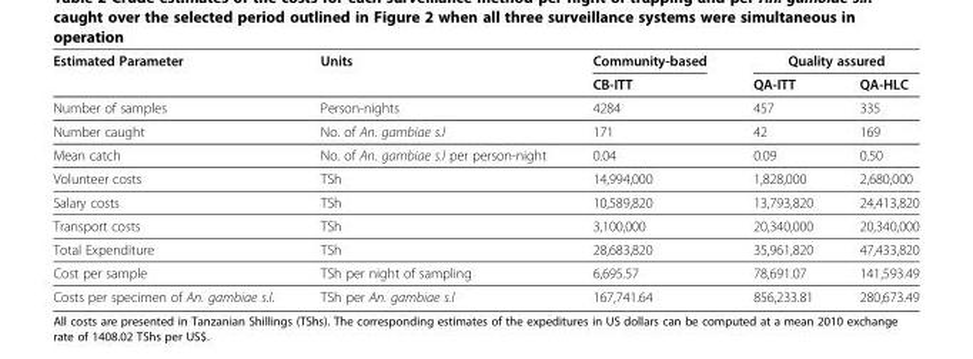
<table><thead><tr><td rowspan="2">Estimated Parameter</td><td rowspan="2">Units</td><td rowspan="2">Community-based CB-ITT</td><td colspan="2">Quality assured</td></tr><tr><td>QA-ITT</td><td>QA-HLC</td></tr></thead><tbody><tr><td>Number of samples</td><td>Person-nights</td><td>4284</td><td>457</td><td>335</td></tr><tr><td>Number caught</td><td>No. of An. gambiae s.l</td><td>171</td><td>42</td><td>169</td></tr><tr><td>Mean catch</td><td>No. of An. gambiae s.l per person-night</td><td>0.04</td><td>0.09</td><td>0.50</td></tr><tr><td>Volunteer costs</td><td>TSh</td><td>14,994,000</td><td>1,828,000</td><td>2,680,000</td></tr><tr><td>Salary costs</td><td>TSh</td><td>10,589,820</td><td>13,793,820</td><td>24,413,820</td></tr><tr><td>Transport costs</td><td>TSh</td><td>3,100,000</td><td>20,340,000</td><td>20,340,000</td></tr><tr><td>Total Expenditure</td><td>TSh</td><td>28,683,820</td><td>35,961,820</td><td>47,433,820</td></tr><tr><td>Cost per sample</td><td>TSh per night of sampling</td><td>6,695.57</td><td>78,691.07</td><td>141,593.49</td></tr><tr><td>Costs per specimen of An. gambiae s.l.</td><td>TSh per An. gambiae s.l</td><td>167,741.64</td><td>856,233.81</td><td>280,673.49</td></tr></tbody></table>